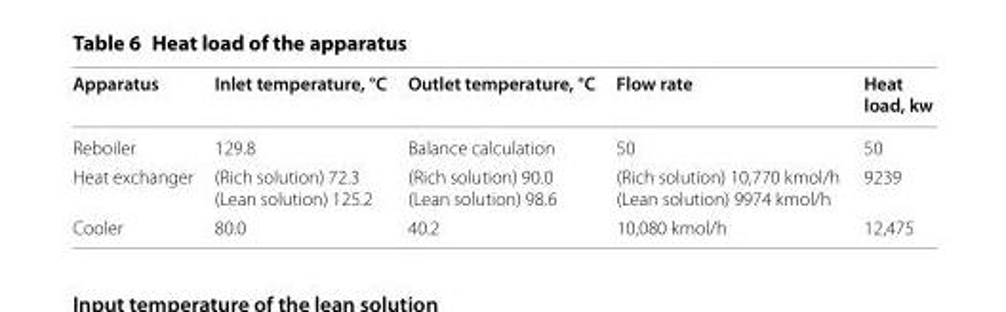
<table><thead><tr><td>Apparatus</td><td>Inlet temperature, °C</td><td>Outlet temperature, °C</td><td>Flow rate</td><td>Heat load, kw</td></tr></thead><tbody><tr><td>Reboiler</td><td>129.8</td><td>Balance calculation</td><td>50</td><td>50</td></tr><tr><td>Heat exchanger</td><td>(Rich solution) 72.3 (Lean solution) 125.2</td><td>(Rich solution) 90.0 (Lean solution) 98.6</td><td>(Rich solution) 10,770 kmol/h (Lean solution) 9974 kmol/h</td><td>9239</td></tr><tr><td>Cooler</td><td>80.0</td><td>40.2</td><td>10,080 kmol/h</td><td>12,475</td></tr></tbody></table>